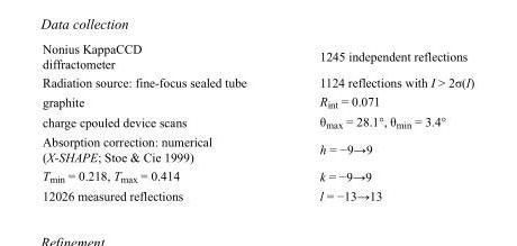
<table><tbody><tr><td>Nonius KappaCCD diffractometer</td><td>1245 independent reflections</td></tr><tr><td>Radiation source: fine-focus sealed tube</td><td>1124 reflections with I &gt; 2σ(I)</td></tr><tr><td>graphite</td><td>R<sub>int</sub> = 0.071</td></tr><tr><td>charge cpouled device scans</td><td>θ<sub>max</sub> = 28.1°, θ<sub>min</sub> = 3.4°</td></tr><tr><td>Absorption correction: numerical (X-SHAPE; Stoe &amp; Cie 1999)</td><td>h = −9→9</td></tr><tr><td>T<sub>min</sub> = 0.218, T<sub>max</sub> = 0.414</td><td>k = −9→9</td></tr><tr><td>12026 measured reflections</td><td>l = −13→13</td></tr></tbody></table>